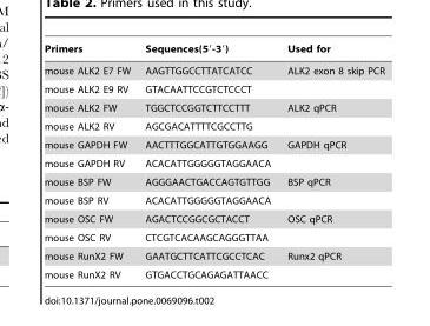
<table><thead><tr><td>Primers</td><td>Sequences(5′-3′)</td><td>Used for</td></tr></thead><tbody><tr><td>mouse ALK2 E7 FW</td><td>AAGTTGGCCTTATCATCC</td><td>ALK2 exon 8 skip PCR</td></tr><tr><td>mouse ALK2 E9 RV</td><td>GTACAATTCCGTCTCCCT</td><td></td></tr><tr><td>mouse ALK2 FW</td><td>TGGCTCCGGTCTTCCTTT</td><td>ALK2 qPCR</td></tr><tr><td>mouse ALK2 RV</td><td>AGCGACATTTTCGCCTTG</td><td></td></tr><tr><td>mouse GAPDH FW</td><td>AACTTTGGCATTGTGGAAGG</td><td>GAPDH qPCR</td></tr><tr><td>mouse GAPDH RV</td><td>ACACATTGGGGGTAGGAACA</td><td></td></tr><tr><td>mouse BSP FW</td><td>AGGGAACTGACCAGTGTTGG</td><td>BSP qPCR</td></tr><tr><td>mouse BSP RV</td><td>ACACATTGGGGGTAGGAACA</td><td></td></tr><tr><td>mouse OSC FW</td><td>AGACTCCGGCGCTACCT</td><td>OSC qPCR</td></tr><tr><td>mouse OSC RV</td><td>CTCGTCACAAGCAGGGTTAA</td><td></td></tr><tr><td>mouse RunX2 FW</td><td>GAATGCTTCATTCGCCTCAC</td><td>Runx2 qPCR</td></tr><tr><td>mouse RunX2 RV</td><td>GTGACCTGCAGAGATTAACC</td><td></td></tr></tbody></table>